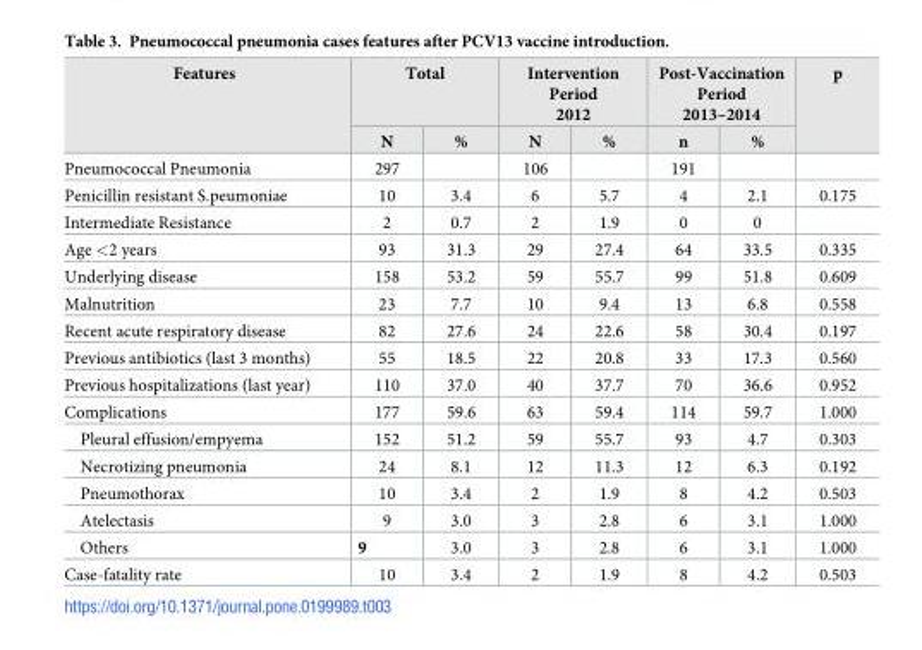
<table><thead><tr><td rowspan="2">Features</td><td colspan="2">Total</td><td colspan="2">Intervention Period 2012</td><td colspan="2">Post-Vaccination Period 2013–2014</td><td rowspan="2">p</td></tr><tr><td>N</td><td>%</td><td>N</td><td>%</td><td>n</td><td>%</td></tr></thead><tbody><tr><td>Pneumococcal Pneumonia</td><td>297</td><td></td><td>106</td><td></td><td>191</td><td></td><td></td></tr><tr><td>Penicillin resistant S.peumoniae</td><td>10</td><td>3.4</td><td>6</td><td>5.7</td><td>4</td><td>2.1</td><td>0.175</td></tr><tr><td>Intermediate Resistance</td><td>2</td><td>0.7</td><td>2</td><td>1.9</td><td>0</td><td>0</td><td></td></tr><tr><td>Age &lt;2 years</td><td>93</td><td>31.3</td><td>29</td><td>27.4</td><td>64</td><td>33.5</td><td>0.335</td></tr><tr><td>Underlying disease</td><td>158</td><td>53.2</td><td>59</td><td>55.7</td><td>99</td><td>51.8</td><td>0.609</td></tr><tr><td>Malnutrition</td><td>23</td><td>7.7</td><td>10</td><td>9.4</td><td>13</td><td>6.8</td><td>0.558</td></tr><tr><td>Recent acute respiratory disease</td><td>82</td><td>27.6</td><td>24</td><td>22.6</td><td>58</td><td>30.4</td><td>0.197</td></tr><tr><td>Previous antibiotics (last 3 months)</td><td>55</td><td>18.5</td><td>22</td><td>20.8</td><td>33</td><td>17.3</td><td>0.560</td></tr><tr><td>Previous hospitalizations (last year)</td><td>110</td><td>37.0</td><td>40</td><td>37.7</td><td>70</td><td>36.6</td><td>0.952</td></tr><tr><td>Complications</td><td>177</td><td>59.6</td><td>63</td><td>59.4</td><td>114</td><td>59.7</td><td>1.000</td></tr><tr><td>Pleural effusion/empyema</td><td>152</td><td>51.2</td><td>59</td><td>55.7</td><td>93</td><td>4.7</td><td>0.303</td></tr><tr><td>Necrotizing pneumonia</td><td>24</td><td>8.1</td><td>12</td><td>11.3</td><td>12</td><td>6.3</td><td>0.192</td></tr><tr><td>Pneumothorax</td><td>10</td><td>3.4</td><td>2</td><td>1.9</td><td>8</td><td>4.2</td><td>0.503</td></tr><tr><td>Atelectasis</td><td>9</td><td>3.0</td><td>3</td><td>2.8</td><td>6</td><td>3.1</td><td>1.000</td></tr><tr><td>Others</td><td>9</td><td>3.0</td><td>3</td><td>2.8</td><td>6</td><td>3.1</td><td>1.000</td></tr><tr><td>Case-fatality rate</td><td>10</td><td>3.4</td><td>2</td><td>1.9</td><td>8</td><td>4.2</td><td>0.503</td></tr></tbody></table>